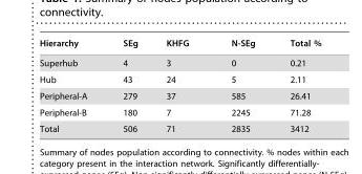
<table><thead><tr><td>Hierarchy</td><td>SEg</td><td>KHFG</td><td>N-SEg</td><td>Total %</td></tr></thead><tbody><tr><td>Superhub</td><td>4</td><td>3</td><td>0</td><td>0.21</td></tr><tr><td>Hub</td><td>43</td><td>24</td><td>5</td><td>2.11</td></tr><tr><td>Peripheral-A</td><td>279</td><td>37</td><td>585</td><td>26.41</td></tr><tr><td>Peripheral-B</td><td>180</td><td>7</td><td>2245</td><td>71.28</td></tr><tr><td>Total</td><td>506</td><td>71</td><td>2835</td><td>3412</td></tr></tbody></table>